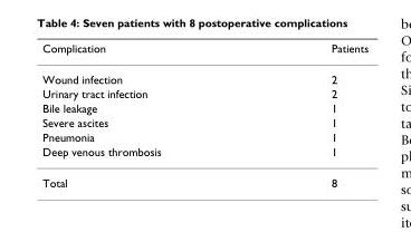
<table><thead><tr><td>Complication</td><td>Patients</td></tr></thead><tbody><tr><td>Wound infection</td><td>2</td></tr><tr><td>Urinary tract infection</td><td>2</td></tr><tr><td>Bile leakage</td><td>1</td></tr><tr><td>Severe ascites</td><td>1</td></tr><tr><td>Pneumonia</td><td>1</td></tr><tr><td>Deep venous thrombosis</td><td>1</td></tr><tr><td>Total</td><td>8</td></tr></tbody></table>